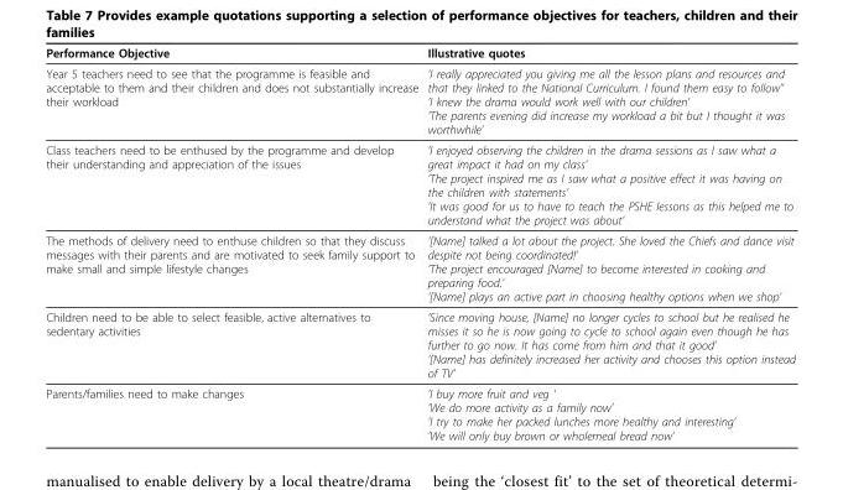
<table><thead><tr><td>Performance Objective</td><td>Illustrative quotes</td></tr></thead><tbody><tr><td>Year 5 teachers need to see that the programme is feasible and acceptable to them and their children and does not substantially increase their workload</td><td>’I really appreciated you giving me all the lesson plans and resources and that they linked to the National Curriculum. I found them easy to follow’’ ’I knew the drama would work well with our children’ ’The parents evening did increase my workload a bit but I thought it was worthwhile’</td></tr><tr><td>Class teachers need to be enthused by the programme and develop their understanding and appreciation of the issues</td><td>’I enjoyed observing the children in the drama sessions as I saw what a great impact it had on my class’ ’The project inspired me as I saw what a positive effect it was having on the children with statements’ ’It was good for us to have to teach the PSHE lessons as this helped me to understand what the project was about’</td></tr><tr><td>The methods of delivery need to enthuse children so that they discuss messages with their parents and are motivated to seek family support to make small and simple lifestyle changes</td><td>’[Name] talked a lot about the project. She loved the Chiefs and dance visit despite not being coordinated!’ ’The project encouraged [Name] to become interested in cooking and preparing food.’ ’[Name] plays an active part in choosing healthy options when we shop’</td></tr><tr><td>Children need to be able to select feasible, active alternatives to sedentary activities</td><td>’Since moving house, [Name] no longer cycles to school but he realised he misses it so he is now going to cycle to school again even though he has further to go now. It has come from him and that it good’ ’[Name] has definitely increased her activity and chooses this option instead of TV’</td></tr><tr><td>Parents/families need to make changes</td><td>’I buy more fruit and veg ‘ ’We do more activity as a family now’ ’I try to make her packed lunches more healthy and interesting’ ’We will only buy brown or wholemeal bread now’</td></tr></tbody></table>